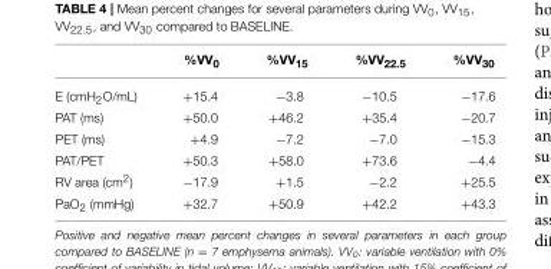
<table><thead><tr><td></td><td>%VV<sub>0</sub></td><td>%VV<sub>15</sub></td><td>%VV<sub>22.5</sub></td><td>%VV<sub>30</sub></td></tr></thead><tbody><tr><td>E (cmH<sub>2</sub>O/mL)</td><td>+15.4</td><td>−3.8</td><td>−10.5</td><td>−17.6</td></tr><tr><td>PAT (ms)</td><td>+50.0</td><td>+46.2</td><td>+35.4</td><td>−20.7</td></tr><tr><td>PET (ms)</td><td>+4.9</td><td>−7.2</td><td>−7.0</td><td>−15.3</td></tr><tr><td>PAT/PET</td><td>+50.3</td><td>+58.0</td><td>+73.6</td><td>−4.4</td></tr><tr><td>RV area (cm<sup>2</sup>)</td><td>−17.9</td><td>+1.5</td><td>−2.2</td><td>+25.5</td></tr><tr><td>PaO<sub>2</sub> (mmHg)</td><td>+32.7</td><td>+50.9</td><td>+42.2</td><td>+43.3</td></tr></tbody></table>